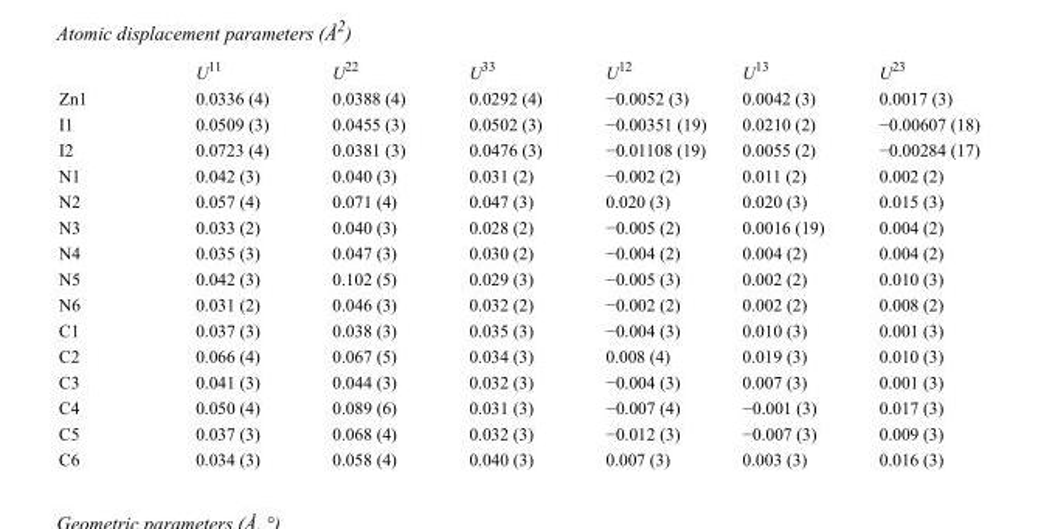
<table><thead><tr><td></td><td>U<sup>11</sup></td><td>U<sup>22</sup></td><td>U<sup>33</sup></td><td>U<sup>12</sup></td><td>U<sup>13</sup></td><td>U<sup>23</sup></td></tr></thead><tbody><tr><td>Zn1</td><td>0.0336 (4)</td><td>0.0388 (4)</td><td>0.0292 (4)</td><td>−0.0052 (3)</td><td>0.0042 (3)</td><td>0.0017 (3)</td></tr><tr><td>I1</td><td>0.0509 (3)</td><td>0.0455 (3)</td><td>0.0502 (3)</td><td>−0.00351 (19)</td><td>0.0210 (2)</td><td>−0.00607 (18)</td></tr><tr><td>I2</td><td>0.0723 (4)</td><td>0.0381 (3)</td><td>0.0476 (3)</td><td>−0.01108 (19)</td><td>0.0055 (2)</td><td>−0.00284 (17)</td></tr><tr><td>N1</td><td>0.042 (3)</td><td>0.040 (3)</td><td>0.031 (2)</td><td>−0.002 (2)</td><td>0.011 (2)</td><td>0.002 (2)</td></tr><tr><td>N2</td><td>0.057 (4)</td><td>0.071 (4)</td><td>0.047 (3)</td><td>0.020 (3)</td><td>0.020 (3)</td><td>0.015 (3)</td></tr><tr><td>N3</td><td>0.033 (2)</td><td>0.040 (3)</td><td>0.028 (2)</td><td>−0.005 (2)</td><td>0.0016 (19)</td><td>0.004 (2)</td></tr><tr><td>N4</td><td>0.035 (3)</td><td>0.047 (3)</td><td>0.030 (2)</td><td>−0.004 (2)</td><td>0.004 (2)</td><td>0.004 (2)</td></tr><tr><td>N5</td><td>0.042 (3)</td><td>0.102 (5)</td><td>0.029 (3)</td><td>−0.005 (3)</td><td>0.002 (2)</td><td>0.010 (3)</td></tr><tr><td>N6</td><td>0.031 (2)</td><td>0.046 (3)</td><td>0.032 (2)</td><td>−0.002 (2)</td><td>0.002 (2)</td><td>0.008 (2)</td></tr><tr><td>C1</td><td>0.037 (3)</td><td>0.038 (3)</td><td>0.035 (3)</td><td>−0.004 (3)</td><td>0.010 (3)</td><td>0.001 (3)</td></tr><tr><td>C2</td><td>0.066 (4)</td><td>0.067 (5)</td><td>0.034 (3)</td><td>0.008 (4)</td><td>0.019 (3)</td><td>0.010 (3)</td></tr><tr><td>C3</td><td>0.041 (3)</td><td>0.044 (3)</td><td>0.032 (3)</td><td>−0.004 (3)</td><td>0.007 (3)</td><td>0.001 (3)</td></tr><tr><td>C4</td><td>0.050 (4)</td><td>0.089 (6)</td><td>0.031 (3)</td><td>−0.007 (4)</td><td>−0.001 (3)</td><td>0.017 (3)</td></tr><tr><td>C5</td><td>0.037 (3)</td><td>0.068 (4)</td><td>0.032 (3)</td><td>−0.012 (3)</td><td>−0.007 (3)</td><td>0.009 (3)</td></tr><tr><td>C6</td><td>0.034 (3)</td><td>0.058 (4)</td><td>0.040 (3)</td><td>0.007 (3)</td><td>0.003 (3)</td><td>0.016 (3)</td></tr></tbody></table>